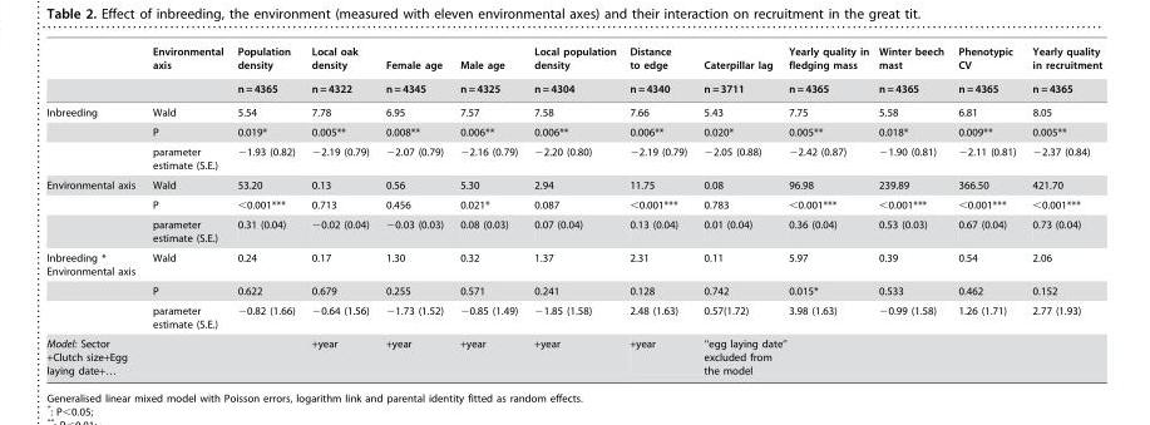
<table><thead><tr><td rowspan="2"></td><td rowspan="2">Environmental axis</td><td rowspan="2">Population density n = 4365</td><td rowspan="2">Local oak density n = 4322</td><td rowspan="2">Female age n = 4345</td><td rowspan="2">Male age n = 4325</td><td rowspan="2">Local population density n = 4304</td><td rowspan="2">Distance to edge n = 4340</td><td rowspan="2">Caterpillar lag n = 3711</td><td rowspan="2">Yearly quality in fledging mass n = 4365</td><td rowspan="2">Winter beech mast n = 4365</td><td rowspan="2">Phenotypic CV n = 4365</td><td rowspan="2">Yearly quality in recruitment n = 4365</td></tr><tr></tr></thead><tbody><tr><td rowspan="3">Inbreeding</td><td>Wald</td><td>5.54</td><td>7.78</td><td>6.95</td><td>7.57</td><td>7.58</td><td>7.66</td><td>5.43</td><td>7.75</td><td>5.58</td><td>6.81</td><td>8.05</td></tr><tr><td>P</td><td>0.019*</td><td>0.005**</td><td>0.008**</td><td>0.006**</td><td>0.006**</td><td>0.006**</td><td>0.020*</td><td>0.005**</td><td>0.018*</td><td>0.009**</td><td>0.005**</td></tr><tr><td>parameter estimate (S.E.)</td><td>−1.93 (0.82)</td><td>−2.19 (0.79)</td><td>−2.07 (0.79)</td><td>−2.16 (0.79)</td><td>−2.20 (0.80)</td><td>−2.19 (0.79)</td><td>−2.05 (0.88)</td><td>−2.42 (0.87)</td><td>−1.90 (0.81)</td><td>−2.11 (0.81)</td><td>−2.37 (0.84)</td></tr><tr><td rowspan="3">Environmental axis</td><td>Wald</td><td>53.20</td><td>0.13</td><td>0.56</td><td>5.30</td><td>2.94</td><td>11.75</td><td>0.08</td><td>96.98</td><td>239.89</td><td>366.50</td><td>421.70</td></tr><tr><td>P</td><td>&lt;0.001***</td><td>0.713</td><td>0.456</td><td>0.021*</td><td>0.087</td><td>&lt;0.001***</td><td>0.783</td><td>&lt;0.001***</td><td>&lt;0.001***</td><td>&lt;0.001***</td><td>&lt;0.001***</td></tr><tr><td>parameter estimate (S.E.)</td><td>0.31 (0.04)</td><td>−0.02 (0.04)</td><td>−0.03 (0.03)</td><td>0.08 (0.03)</td><td>0.07 (0.04)</td><td>0.13 (0.04)</td><td>0.01 (0.04)</td><td>0.36 (0.04)</td><td>0.53 (0.03)</td><td>0.67 (0.04)</td><td>0.73 (0.04)</td></tr><tr><td rowspan="3">Inbreeding * Environmental axis</td><td>Wald</td><td>0.24</td><td>0.17</td><td>1.30</td><td>0.32</td><td>1.37</td><td>2.31</td><td>0.11</td><td>5.97</td><td>0.39</td><td>0.54</td><td>2.06</td></tr><tr><td>P</td><td>0.622</td><td>0.679</td><td>0.255</td><td>0.571</td><td>0.241</td><td>0.128</td><td>0.742</td><td>0.015*</td><td>0.533</td><td>0.462</td><td>0.152</td></tr><tr><td>parameter estimate (S.E.)</td><td>−0.82 (1.66)</td><td>−0.64 (1.56)</td><td>−1.73 (1.52)</td><td>−0.85 (1.49)</td><td>−1.85 (1.58)</td><td>2.48 (1.63)</td><td>0.57(1.72)</td><td>3.98 (1.63)</td><td>−0.99 (1.58)</td><td>1.26 (1.71)</td><td>2.77 (1.93)</td></tr><tr><td>Model: Sector +Clutch size+Egg laying date+…</td><td></td><td></td><td>+year</td><td>+year</td><td>+year</td><td>+year</td><td>+year</td><td>‘‘egg laying date’’ excluded from the model</td><td></td><td></td><td></td><td></td></tr></tbody></table>